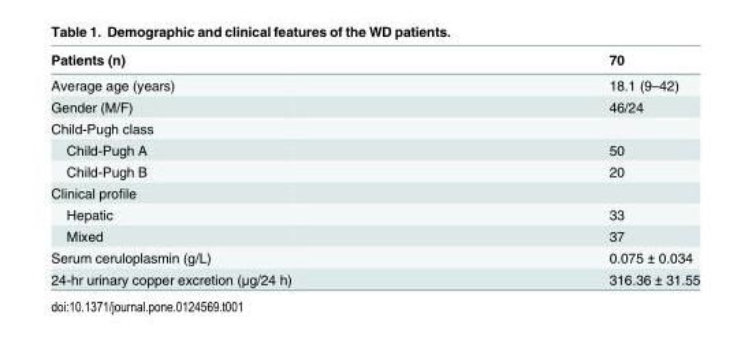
<table><thead><tr><td>Patients (n)</td><td>70</td></tr></thead><tbody><tr><td>Average age (years)</td><td>18.1 (9–42)</td></tr><tr><td>Gender (M/F)</td><td>46/24</td></tr><tr><td colspan="2">Child-Pugh class</td></tr><tr><td>Child-Pugh A</td><td>50</td></tr><tr><td>Child-Pugh B</td><td>20</td></tr><tr><td colspan="2">Clinical profile</td></tr><tr><td>Hepatic</td><td>33</td></tr><tr><td>Mixed</td><td>37</td></tr><tr><td>Serum ceruloplasmin (g/L)</td><td>0.075 ± 0.034</td></tr><tr><td>24-hr urinary copper excretion (μg/24 h)</td><td>316.36 ± 31.55</td></tr></tbody></table>